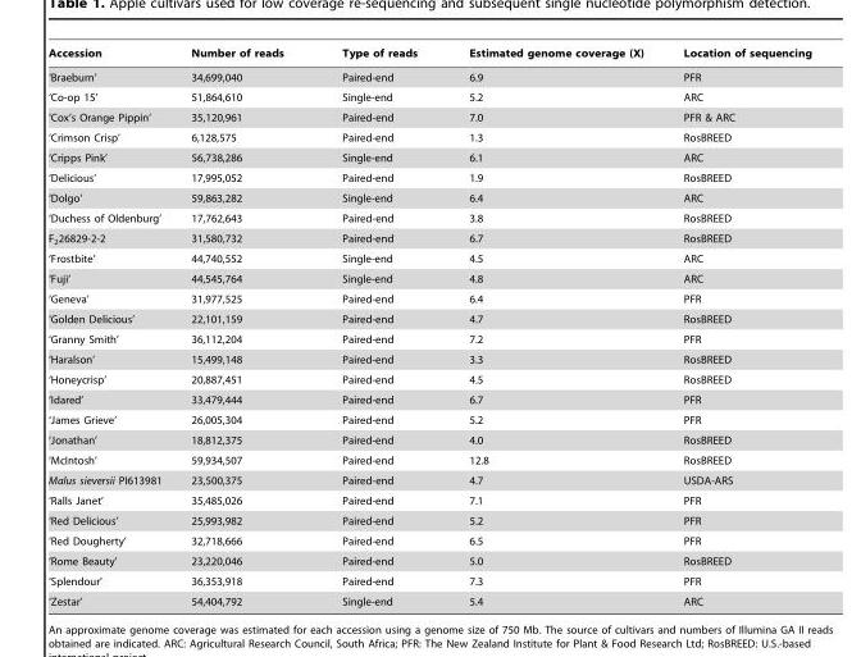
<table><thead><tr><td>Accession</td><td>Number of reads</td><td>Type of reads</td><td>Estimated genome coverage (X)</td><td>Location of sequencing</td></tr></thead><tbody><tr><td>‘Braeburn’</td><td>34,699,040</td><td>Paired-end</td><td>6.9</td><td>PFR</td></tr><tr><td>‘Co-op 15’</td><td>51,864,610</td><td>Single-end</td><td>5.2</td><td>ARC</td></tr><tr><td>‘Cox’s Orange Pippin’</td><td>35,120,961</td><td>Paired-end</td><td>7.0</td><td>PFR &amp; ARC</td></tr><tr><td>‘Crimson Crisp’</td><td>6,128,575</td><td>Paired-end</td><td>1.3</td><td>RosBREED</td></tr><tr><td>‘Cripps Pink’</td><td>56,738,286</td><td>Single-end</td><td>6.1</td><td>ARC</td></tr><tr><td>‘Delicious’</td><td>17,995,052</td><td>Paired-end</td><td>1.9</td><td>RosBREED</td></tr><tr><td>‘Dolgo’</td><td>59,863,282</td><td>Single-end</td><td>6.4</td><td>ARC</td></tr><tr><td>‘Duchess of Oldenburg’</td><td>17,762,643</td><td>Paired-end</td><td>3.8</td><td>RosBREED</td></tr><tr><td>F<sub>2</sub>26829-2-2</td><td>31,580,732</td><td>Paired-end</td><td>6.7</td><td>RosBREED</td></tr><tr><td>‘Frostbite’</td><td>44,740,552</td><td>Single-end</td><td>4.5</td><td>ARC</td></tr><tr><td>‘Fuji’</td><td>44,545,764</td><td>Single-end</td><td>4.8</td><td>ARC</td></tr><tr><td>‘Geneva’</td><td>31,977,525</td><td>Paired-end</td><td>6.4</td><td>PFR</td></tr><tr><td>‘Golden Delicious’</td><td>22,101,159</td><td>Paired-end</td><td>4.7</td><td>RosBREED</td></tr><tr><td>‘Granny Smith’</td><td>36,112,204</td><td>Paired-end</td><td>7.2</td><td>PFR</td></tr><tr><td>‘Haralson’</td><td>15,499,148</td><td>Paired-end</td><td>3.3</td><td>RosBREED</td></tr><tr><td>‘Honeycrisp’</td><td>20,887,451</td><td>Paired-end</td><td>4.5</td><td>RosBREED</td></tr><tr><td>‘Idared’</td><td>33,479,444</td><td>Paired-end</td><td>6.7</td><td>PFR</td></tr><tr><td>‘James Grieve’</td><td>26,005,304</td><td>Paired-end</td><td>5.2</td><td>PFR</td></tr><tr><td>‘Jonathan’</td><td>18,812,375</td><td>Paired-end</td><td>4.0</td><td>RosBREED</td></tr><tr><td>‘McIntosh’</td><td>59,934,507</td><td>Paired-end</td><td>12.8</td><td>RosBREED</td></tr><tr><td>Malus sieversii PI613981</td><td>23,500,375</td><td>Paired-end</td><td>4.7</td><td>USDA-ARS</td></tr><tr><td>‘Ralls Janet’</td><td>35,485,026</td><td>Paired-end</td><td>7.1</td><td>PFR</td></tr><tr><td>‘Red Delicious’</td><td>25,993,982</td><td>Paired-end</td><td>5.2</td><td>PFR</td></tr><tr><td>‘Red Dougherty’</td><td>32,718,666</td><td>Paired-end</td><td>6.5</td><td>PFR</td></tr><tr><td>‘Rome Beauty’</td><td>23,220,046</td><td>Paired-end</td><td>5.0</td><td>RosBREED</td></tr><tr><td>‘Splendour’</td><td>36,353,918</td><td>Paired-end</td><td>7.3</td><td>PFR</td></tr><tr><td>‘Zestar’</td><td>54,404,792</td><td>Single-end</td><td>5.4</td><td>ARC</td></tr></tbody></table>